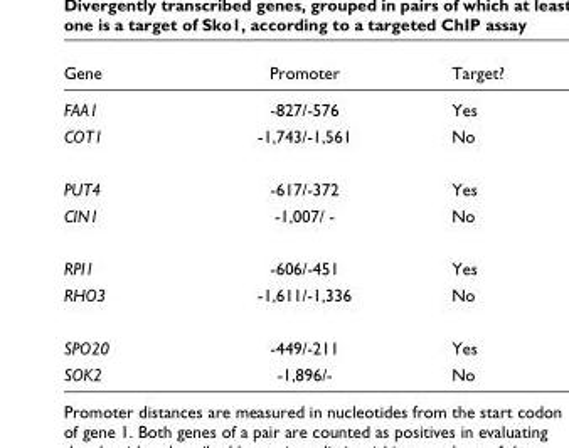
<table><thead><tr><td>Gene</td><td>Promoter</td><td>Target?</td></tr></thead><tbody><tr><td>FAA1</td><td>-827/-576</td><td>Yes</td></tr><tr><td>COT1</td><td>-1,743/-1,561</td><td>No</td></tr><tr><td>PUT4</td><td>-617/-372</td><td>Yes</td></tr><tr><td>CIN1</td><td>-1,007/ -</td><td>No</td></tr><tr><td>RPI1</td><td>-606/-451</td><td>Yes</td></tr><tr><td>RHO3</td><td>-1,611/-1,336</td><td>No</td></tr><tr><td>SPO20</td><td>-449/-211</td><td>Yes</td></tr><tr><td>SOK2</td><td>-1,896/-</td><td>No</td></tr></tbody></table>